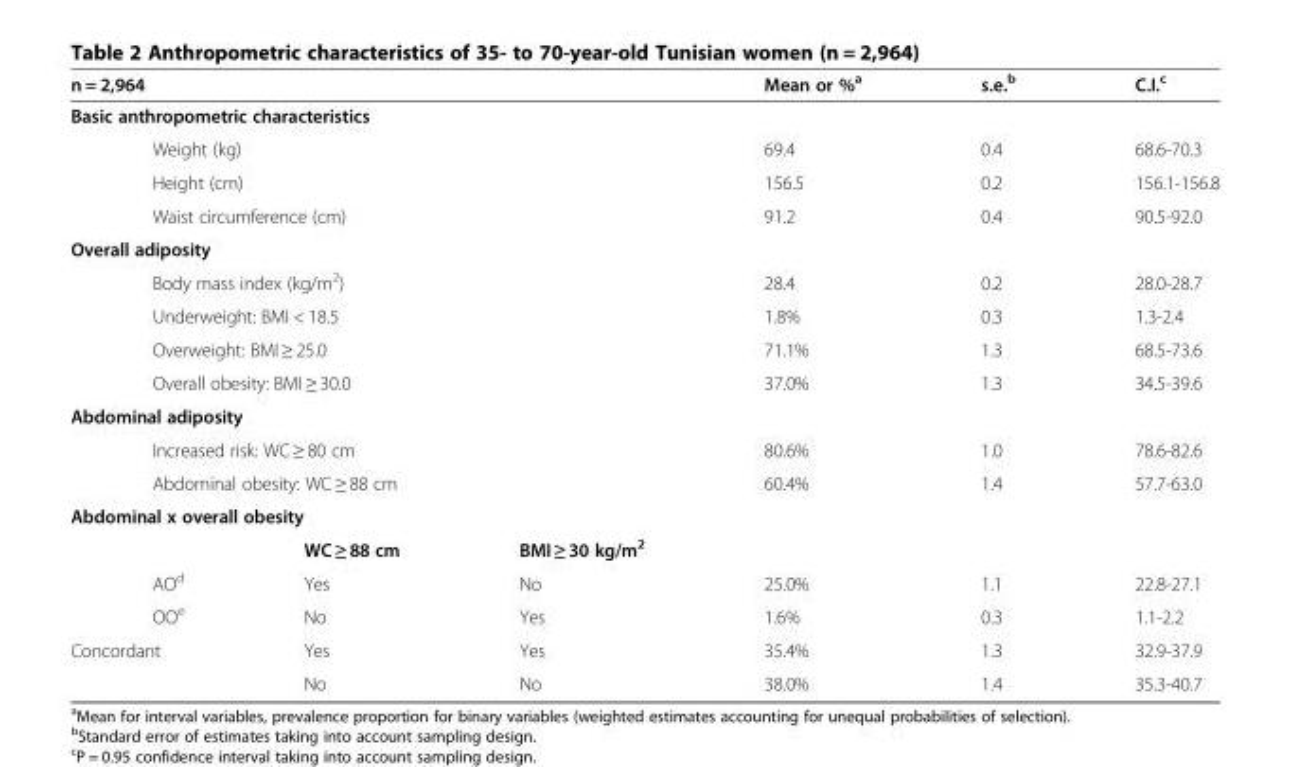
<table><thead><tr><td colspan="3">n = 2,964</td><td>Mean or %<sup>a</sup></td><td>s.e.<sup>b</sup></td><td>C.I.<sup>c</sup></td></tr></thead><tbody><tr><td colspan="6">Basic anthropometric characteristics</td></tr><tr><td colspan="3">Weight (kg)</td><td>69.4</td><td>0.4</td><td>68.6-70.3</td></tr><tr><td colspan="3">Height (cm)</td><td>156.5</td><td>0.2</td><td>156.1-156.8</td></tr><tr><td colspan="3">Waist circumference (cm)</td><td>91.2</td><td>0.4</td><td>90.5-92.0</td></tr><tr><td colspan="6">Overall adiposity</td></tr><tr><td colspan="3">Body mass index (kg/m<sup>2</sup>)</td><td>28.4</td><td>0.2</td><td>28.0-28.7</td></tr><tr><td colspan="3">Underweight: BMI &lt; 18.5</td><td>1.8%</td><td>0.3</td><td>1.3-2.4</td></tr><tr><td colspan="3">Overweight: BMI ≥ 25.0</td><td>71.1%</td><td>1.3</td><td>68.5-73.6</td></tr><tr><td colspan="3">Overall obesity: BMI ≥ 30.0</td><td>37.0%</td><td>1.3</td><td>34.5-39.6</td></tr><tr><td colspan="6">Abdominal adiposity</td></tr><tr><td colspan="3">Increased risk: WC ≥ 80 cm</td><td>80.6%</td><td>1.0</td><td>78.6-82.6</td></tr><tr><td colspan="3">Abdominal obesity: WC ≥ 88 cm</td><td>60.4%</td><td>1.4</td><td>57.7-63.0</td></tr><tr><td colspan="6">Abdominal x overall obesity</td></tr><tr><td></td><td>WC ≥ 88 cm</td><td>BMI ≥ 30 kg/m<sup>2</sup></td><td></td><td></td><td></td></tr><tr><td>AO<sup>d</sup></td><td>Yes</td><td>No</td><td>25.0%</td><td>1.1</td><td>22.8-27.1</td></tr><tr><td>OO<sup>e</sup></td><td>No</td><td>Yes</td><td>1.6%</td><td>0.3</td><td>1.1-2.2</td></tr><tr><td rowspan="2">Concordant</td><td>Yes</td><td>Yes</td><td>35.4%</td><td>1.3</td><td>32.9-37.9</td></tr><tr><td>No</td><td>No</td><td>38.0%</td><td>1.4</td><td>35.3-40.7</td></tr></tbody></table>